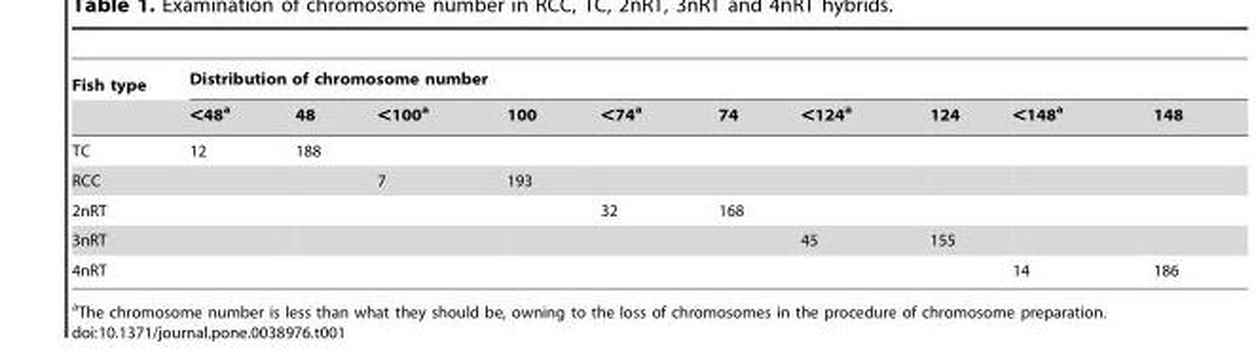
<table><thead><tr><td rowspan="2">Fish type</td><td colspan="10">Distribution of chromosome number</td></tr><tr><td>&lt;48<sup>a</sup></td><td>48</td><td>&lt;100<sup>a</sup></td><td>100</td><td>&lt;74<sup>a</sup></td><td>74</td><td>&lt;124<sup>a</sup></td><td>124</td><td>&lt;148<sup>a</sup></td><td>148</td></tr></thead><tbody><tr><td>TC</td><td>12</td><td>188</td><td></td><td></td><td></td><td></td><td></td><td></td><td></td><td></td></tr><tr><td>RCC</td><td></td><td></td><td>7</td><td>193</td><td></td><td></td><td></td><td></td><td></td><td></td></tr><tr><td>2nRT</td><td></td><td></td><td></td><td></td><td>32</td><td>168</td><td></td><td></td><td></td><td></td></tr><tr><td>3nRT</td><td></td><td></td><td></td><td></td><td></td><td></td><td>45</td><td>155</td><td></td><td></td></tr><tr><td>4nRT</td><td></td><td></td><td></td><td></td><td></td><td></td><td></td><td></td><td>14</td><td>186</td></tr></tbody></table>